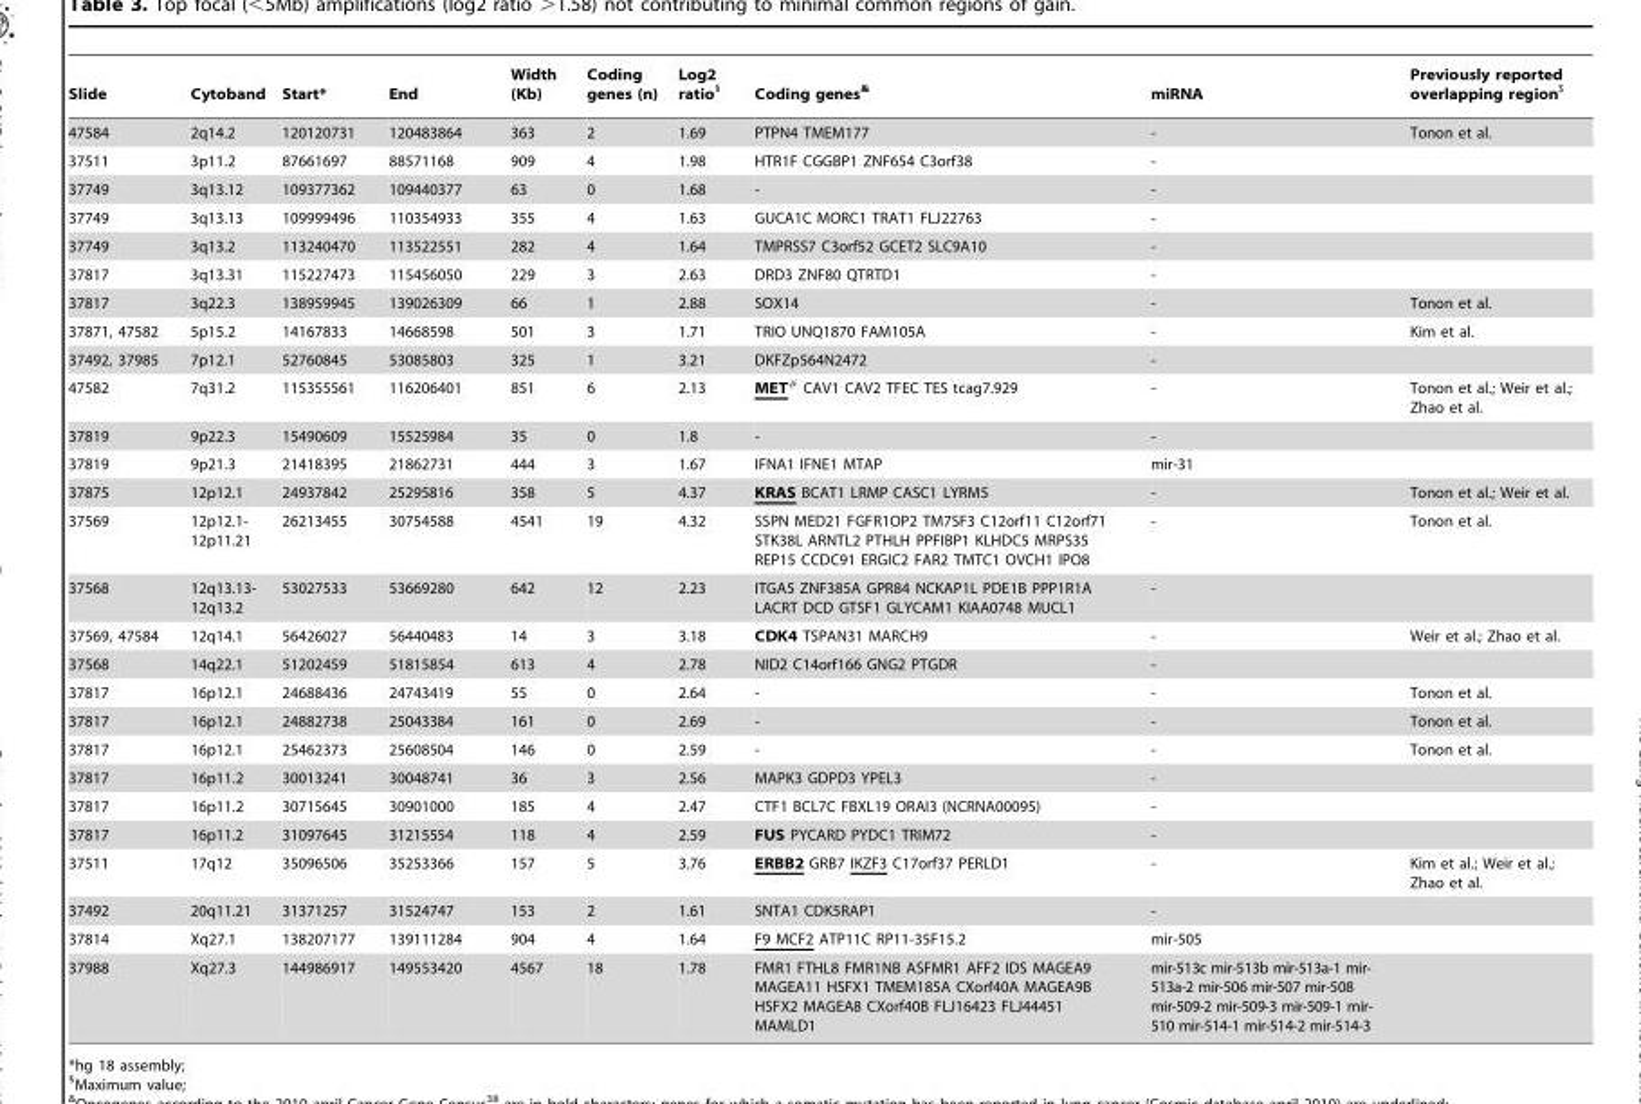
<table><thead><tr><td>Slide</td><td>Cytoband</td><td>Start*</td><td>End</td><td>Width (Kb)</td><td>Coding genes (n)</td><td>Log2 ratio§</td><td>Coding genes&amp;</td><td>miRNA</td><td>Previously reported overlapping region$</td></tr></thead><tbody><tr><td>47584</td><td>2q14.2</td><td>120120731</td><td>120483864</td><td>363</td><td>2</td><td>1.69</td><td>PTPN4 TMEM177</td><td>-</td><td>Tonon et al.</td></tr><tr><td>37511</td><td>3p11.2</td><td>87661697</td><td>88571168</td><td>909</td><td>4</td><td>1.98</td><td>HTR1F CGGBP1 ZNF654 C3orf38</td><td>-</td><td></td></tr><tr><td>37749</td><td>3q13.12</td><td>109377362</td><td>109440377</td><td>63</td><td>0</td><td>1.68</td><td>-</td><td>-</td><td></td></tr><tr><td>37749</td><td>3q13.13</td><td>109999496</td><td>110354933</td><td>355</td><td>4</td><td>1.63</td><td>GUCA1C MORC1 TRAT1 FLJ22763</td><td>-</td><td></td></tr><tr><td>37749</td><td>3q13.2</td><td>113240470</td><td>113522551</td><td>282</td><td>4</td><td>1.64</td><td>TMPRSS7 C3orf52 GCET2 SLC9A10</td><td>-</td><td></td></tr><tr><td>37817</td><td>3q13.31</td><td>115227473</td><td>115456050</td><td>229</td><td>3</td><td>2.63</td><td>DRD3 ZNF80 QTRTD1</td><td>-</td><td></td></tr><tr><td>37817</td><td>3q22.3</td><td>138959945</td><td>139026309</td><td>66</td><td>1</td><td>2.88</td><td>SOX14</td><td>-</td><td>Tonon et al.</td></tr><tr><td>37871, 47582</td><td>5p15.2</td><td>14167833</td><td>14668598</td><td>501</td><td>3</td><td>1.71</td><td>TRIO UNQ1870 FAM105A</td><td>-</td><td>Kim et al.</td></tr><tr><td>37492, 37985</td><td>7p12.1</td><td>52760845</td><td>53085803</td><td>325</td><td>1</td><td>3.21</td><td>DKFZp564N2472</td><td>-</td><td></td></tr><tr><td>47582</td><td>7q31.2</td><td>115355561</td><td>116206401</td><td>851</td><td>6</td><td>2.13</td><td>MET# CAV1 CAV2 TFEC TES tcag7.929</td><td>-</td><td>Tonon et al.; Weir et al.; Zhao et al.</td></tr><tr><td>37819</td><td>9p22.3</td><td>15490609</td><td>15525984</td><td>35</td><td>0</td><td>1.8</td><td>-</td><td>-</td><td></td></tr><tr><td>37819</td><td>9p21.3</td><td>21418395</td><td>21862731</td><td>444</td><td>3</td><td>1.67</td><td>IFNA1 IFNE1 MTAP</td><td>mir-31</td><td></td></tr><tr><td>37875</td><td>12p12.1</td><td>24937842</td><td>25295816</td><td>358</td><td>5</td><td>4.37</td><td>KRAS BCAT1 LRMP CASC1 LYRM5</td><td>-</td><td>Tonon et al.; Weir et al.</td></tr><tr><td>37569</td><td>12p12.1- 12p11.21</td><td>26213455</td><td>30754588</td><td>4541</td><td>19</td><td>4.32</td><td>SSPN MED21 FGFR1OP2 TM7SF3 C12orf11 C12orf71 STK38L ARNTL2 PTHLH PPFIBP1 KLHDC5 MRPS35 REP15 CCDC91 ERGIC2 FAR2 TMTC1 OVCH1 IPO8</td><td>-</td><td>Tonon et al.</td></tr><tr><td>37568</td><td>12q13.13- 12q13.2</td><td>53027533</td><td>53669280</td><td>642</td><td>12</td><td>2.23</td><td>ITGA5 ZNF385A GPR84 NCKAP1L PDE1B PPP1R1A LACRT DCD GTSF1 GLYCAM1 KIAA0748 MUCL1</td><td>-</td><td></td></tr><tr><td>37569, 47584</td><td>12q14.1</td><td>56426027</td><td>56440483</td><td>14</td><td>3</td><td>3.18</td><td>CDK4 TSPAN31 MARCH9</td><td>-</td><td>Weir et al.; Zhao et al.</td></tr><tr><td>37568</td><td>14q22.1</td><td>51202459</td><td>51815854</td><td>613</td><td>4</td><td>2.78</td><td>NID2 C14orf166 GNG2 PTGDR</td><td>-</td><td></td></tr><tr><td>37817</td><td>16p12.1</td><td>24688436</td><td>24743419</td><td>55</td><td>0</td><td>2.64</td><td>-</td><td>-</td><td>Tonon et al.</td></tr><tr><td>37817</td><td>16p12.1</td><td>24882738</td><td>25043384</td><td>161</td><td>0</td><td>2.69</td><td>-</td><td>-</td><td>Tonon et al.</td></tr><tr><td>37817</td><td>16p12.1</td><td>25462373</td><td>25608504</td><td>146</td><td>0</td><td>2.59</td><td>-</td><td>-</td><td>Tonon et al.</td></tr><tr><td>37817</td><td>16p11.2</td><td>30013241</td><td>30048741</td><td>36</td><td>3</td><td>2.56</td><td>MAPK3 GDPD3 YPEL3</td><td>-</td><td></td></tr><tr><td>37817</td><td>16p11.2</td><td>30715645</td><td>30901000</td><td>185</td><td>4</td><td>2.47</td><td>CTF1 BCL7C FBXL19 ORAI3 (NCRNA00095)</td><td>-</td><td></td></tr><tr><td>37817</td><td>16p11.2</td><td>31097645</td><td>31215554</td><td>118</td><td>4</td><td>2.59</td><td>FUS PYCARD PYDC1 TRIM72</td><td>-</td><td></td></tr><tr><td>37511</td><td>17q12</td><td>35096506</td><td>35253366</td><td>157</td><td>5</td><td>3.76</td><td>ERBB2 GRB7 IKZF3 C17orf37 PERLD1</td><td>-</td><td>Kim et al.; Weir et al.; Zhao et al.</td></tr><tr><td>37492</td><td>20q11.21</td><td>31371257</td><td>31524747</td><td>153</td><td>2</td><td>1.61</td><td>SNTA1 CDK5RAP1</td><td>-</td><td></td></tr><tr><td>37814</td><td>Xq27.1</td><td>138207177</td><td>139111284</td><td>904</td><td>4</td><td>1.64</td><td>F9 MCF2 ATP11C RP11-35F15.2</td><td>mir-505</td><td></td></tr><tr><td>37988</td><td>Xq27.3</td><td>144986917</td><td>149553420</td><td>4567</td><td>18</td><td>1.78</td><td>FMR1 FTHL8 FMR1NB ASFMR1 AFF2 IDS MAGEA9 MAGEA11 HSFX1 TMEM185A CXorf40A MAGEA9B HSFX2 MAGEA8 CXorf40B FLJ16423 FLJ44451 MAMLD1</td><td>mir-513c mir-513b mir-513a-1 mir- 513a-2 mir-506 mir-507 mir-508 mir-509-2 mir-509-3 mir-509-1 mir- 510 mir-514-1 mir-514-2 mir-514-3</td><td></td></tr></tbody></table>